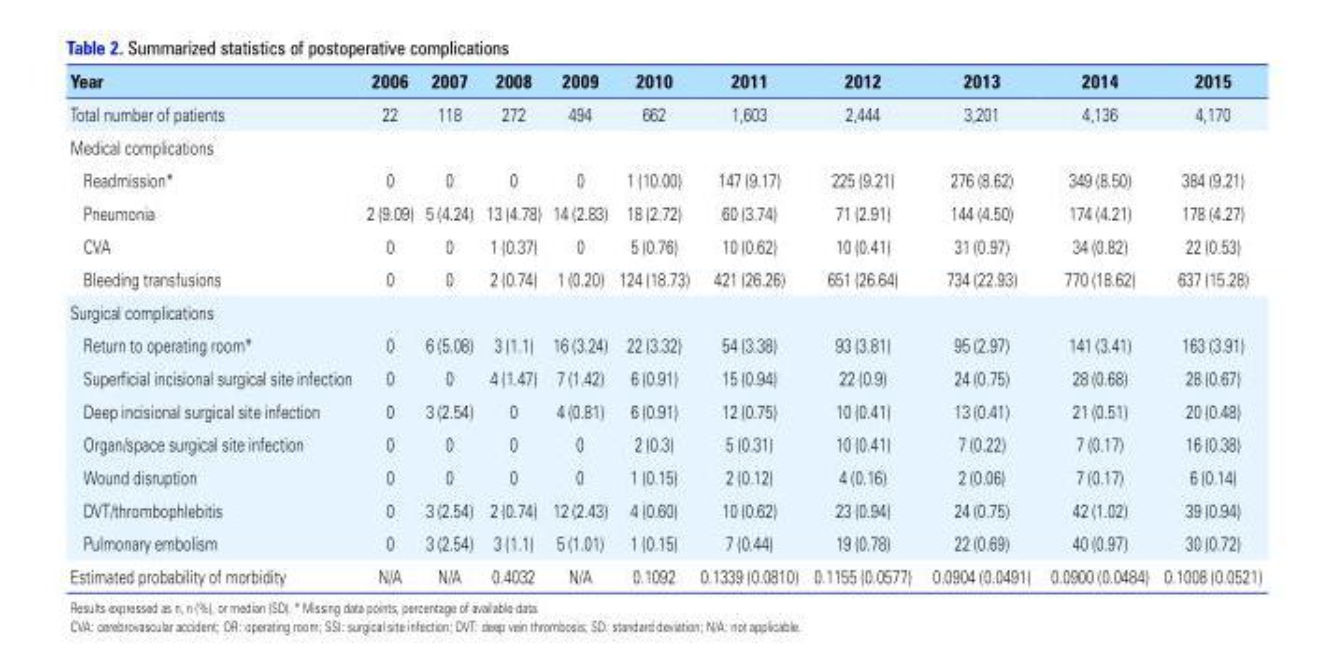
<table><thead><tr><td>Year</td><td>2006</td><td>2007</td><td>2008</td><td>2009</td><td>2010</td><td>2011</td><td>2012</td><td>2013</td><td>2014</td><td>2015</td></tr></thead><tbody><tr><td>Total number of patients</td><td>22</td><td>118</td><td>272</td><td>494</td><td>662</td><td>1,603</td><td>2,444</td><td>3,201</td><td>4,136</td><td>4,170</td></tr><tr><td colspan="11">Medical complications</td></tr><tr><td>Readmission*</td><td>0</td><td>0</td><td>0</td><td>0</td><td>1 (10.00)</td><td>147 (9.17)</td><td>225 (9.21)</td><td>276 (8.62)</td><td>349 (8.50)</td><td>384 (9.21)</td></tr><tr><td>Pneumonia</td><td>2 (9.09)</td><td>5 (4.24)</td><td>13 (4.78)</td><td>14 (2.83)</td><td>18 (2.72)</td><td>60 (3.74)</td><td>71 (2.91)</td><td>144 (4.50)</td><td>174 (4.21)</td><td>178 (4.27)</td></tr><tr><td>CVA</td><td>0</td><td>0</td><td>1 (0.37)</td><td>0</td><td>5 (0.76)</td><td>10 (0.62)</td><td>10 (0.41)</td><td>31 (0.97)</td><td>34 (0.82)</td><td>22 (0.53)</td></tr><tr><td>Bleeding transfusions</td><td>0</td><td>0</td><td>2 (0.74)</td><td>1 (0.20)</td><td>124 (18.73)</td><td>421 (26.26)</td><td>651 (26.64)</td><td>734 (22.93)</td><td>770 (18.62)</td><td>637 (15.28)</td></tr><tr><td colspan="11">Surgical complications</td></tr><tr><td>Return to operating room*</td><td>0</td><td>6 (5.08)</td><td>3 (1.1)</td><td>16 (3.24)</td><td>22 (3.32)</td><td>54 (3.38)</td><td>93 (3.81)</td><td>95 (2.97)</td><td>141 (3.41)</td><td>163 (3.91)</td></tr><tr><td>Superficial incisional surgical site infection</td><td>0</td><td>0</td><td>4 (1.47)</td><td>7 (1.42)</td><td>6 (0.91)</td><td>15 (0.94)</td><td>22 (0.9)</td><td>24 (0.75)</td><td>28 (0.68)</td><td>28 (0.67)</td></tr><tr><td>Deep incisional surgical site infection</td><td>0</td><td>3 (2.54)</td><td>0</td><td>4 (0.81)</td><td>6 (0.91)</td><td>12 (0.75)</td><td>10 (0.41)</td><td>13 (0.41)</td><td>21 (0.51)</td><td>20 (0.48)</td></tr><tr><td>Organ/space surgical site infection</td><td>0</td><td>0</td><td>0</td><td>0</td><td>2 (0.3)</td><td>5 (0.31)</td><td>10 (0.41)</td><td>7 (0.22)</td><td>7 (0.17)</td><td>16 (0.38)</td></tr><tr><td>Wound disruption</td><td>0</td><td>0</td><td>0</td><td>0</td><td>1 (0.15)</td><td>2 (0.12)</td><td>4 (0.16)</td><td>2 (0.06)</td><td>7 (0.17)</td><td>6 (0.14)</td></tr><tr><td>DVT/thrombophlebitis</td><td>0</td><td>3 (2.54)</td><td>2 (0.74)</td><td>12 (2.43)</td><td>4 (0.60)</td><td>10 (0.62)</td><td>23 (0.94)</td><td>24 (0.75)</td><td>42 (1.02)</td><td>39 (0.94)</td></tr><tr><td>Pulmonary embolism</td><td>0</td><td>3 (2.54)</td><td>3 (1.1)</td><td>5 (1.01)</td><td>1 (0.15)</td><td>7 (0.44)</td><td>19 (0.78)</td><td>22 (0.69)</td><td>40 (0.97)</td><td>30 (0.72)</td></tr><tr><td>Estimated probability of morbidity</td><td>N/A</td><td>N/A</td><td>0.4032</td><td>N/A</td><td>0.1092</td><td>0.1339 (0.0810)</td><td>0.1155 (0.0577)</td><td>0.0904 (0.0491)</td><td>0.0900 (0.0484)</td><td>0.1008 (0.0521)</td></tr></tbody></table>